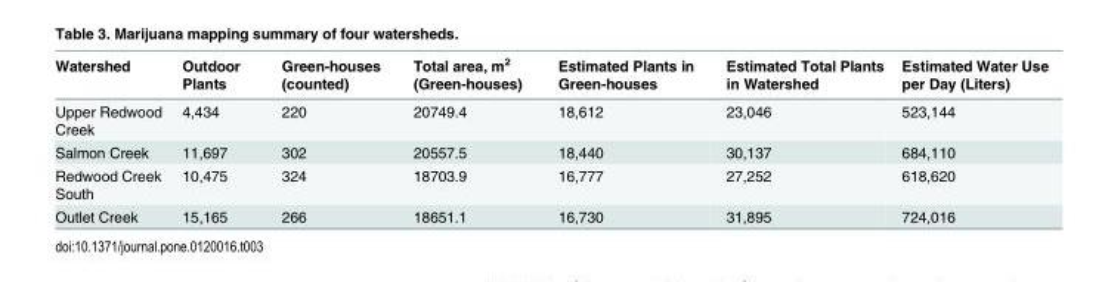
<table><thead><tr><td>Watershed</td><td>Outdoor Plants</td><td>Green-houses (counted)</td><td>Total area, m<sup>2</sup> (Green-houses)</td><td>Estimated Plants in Green-houses</td><td>Estimated Total Plants in Watershed</td><td>Estimated Water Use per Day (Liters)</td></tr></thead><tbody><tr><td>Upper Redwood Creek</td><td>4,434</td><td>220</td><td>20749.4</td><td>18,612</td><td>23,046</td><td>523,144</td></tr><tr><td>Salmon Creek</td><td>11,697</td><td>302</td><td>20557.5</td><td>18,440</td><td>30,137</td><td>684,110</td></tr><tr><td>Redwood Creek South</td><td>10,475</td><td>324</td><td>18703.9</td><td>16,777</td><td>27,252</td><td>618,620</td></tr><tr><td>Outlet Creek</td><td>15,165</td><td>266</td><td>18651.1</td><td>16,730</td><td>31,895</td><td>724,016</td></tr></tbody></table>